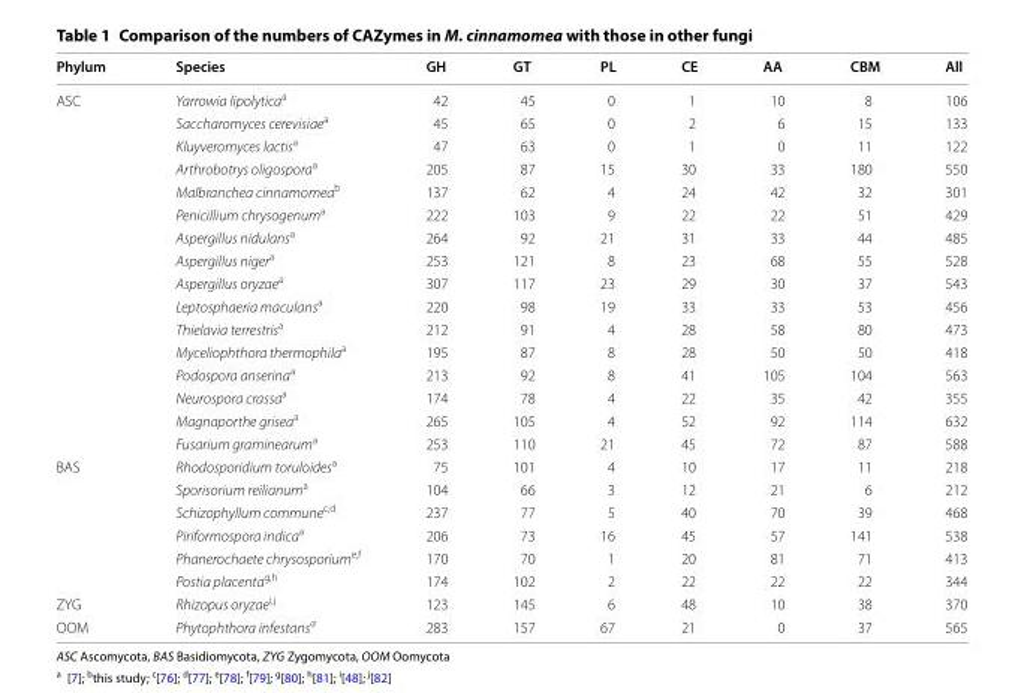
<table><thead><tr><td>Phylum</td><td>Species</td><td>GH</td><td>GT</td><td>PL</td><td>CE</td><td>AA</td><td>CBM</td><td>All</td></tr></thead><tbody><tr><td rowspan="16">ASC</td><td>Yarrowia lipolytica<sup>a</sup></td><td>42</td><td>45</td><td>0</td><td>1</td><td>10</td><td>8</td><td>106</td></tr><tr><td>Saccharomyces cerevisiae<sup>a</sup></td><td>45</td><td>65</td><td>0</td><td>2</td><td>6</td><td>15</td><td>133</td></tr><tr><td>Kluyveromyces lactis<sup>a</sup></td><td>47</td><td>63</td><td>0</td><td>1</td><td>0</td><td>11</td><td>122</td></tr><tr><td>Arthrobotrys oligospora<sup>a</sup></td><td>205</td><td>87</td><td>15</td><td>30</td><td>33</td><td>180</td><td>550</td></tr><tr><td>Malbranchea cinnamomea<sup>b</sup></td><td>137</td><td>62</td><td>4</td><td>24</td><td>42</td><td>32</td><td>301</td></tr><tr><td>Penicillium chrysogenum<sup>a</sup></td><td>222</td><td>103</td><td>9</td><td>22</td><td>22</td><td>51</td><td>429</td></tr><tr><td>Aspergillus nidulans<sup>a</sup></td><td>264</td><td>92</td><td>21</td><td>31</td><td>33</td><td>44</td><td>485</td></tr><tr><td>Aspergillus niger<sup>a</sup></td><td>253</td><td>121</td><td>8</td><td>23</td><td>68</td><td>55</td><td>528</td></tr><tr><td>Aspergillus oryzae<sup>a</sup></td><td>307</td><td>117</td><td>23</td><td>29</td><td>30</td><td>37</td><td>543</td></tr><tr><td>Leptosphaeria maculans<sup>a</sup></td><td>220</td><td>98</td><td>19</td><td>33</td><td>33</td><td>53</td><td>456</td></tr><tr><td>Thielavia terrestris<sup>a</sup></td><td>212</td><td>91</td><td>4</td><td>28</td><td>58</td><td>80</td><td>473</td></tr><tr><td>Myceliophthora thermophila<sup>a</sup></td><td>195</td><td>87</td><td>8</td><td>28</td><td>50</td><td>50</td><td>418</td></tr><tr><td>Podospora anserina<sup>a</sup></td><td>213</td><td>92</td><td>8</td><td>41</td><td>105</td><td>104</td><td>563</td></tr><tr><td>Neurospora crassa<sup>a</sup></td><td>174</td><td>78</td><td>4</td><td>22</td><td>35</td><td>42</td><td>355</td></tr><tr><td>Magnaporthe grisea<sup>a</sup></td><td>265</td><td>105</td><td>4</td><td>52</td><td>92</td><td>114</td><td>632</td></tr><tr><td>Fusarium graminearum<sup>a</sup></td><td>253</td><td>110</td><td>21</td><td>45</td><td>72</td><td>87</td><td>588</td></tr><tr><td rowspan="6">BAS</td><td>Rhodosporidium toruloides<sup>a</sup></td><td>75</td><td>101</td><td>4</td><td>10</td><td>17</td><td>11</td><td>218</td></tr><tr><td>Sporisorium reilianum<sup>a</sup></td><td>104</td><td>66</td><td>3</td><td>12</td><td>21</td><td>6</td><td>212</td></tr><tr><td>Schizophyllum commune<sup>c,d</sup></td><td>237</td><td>77</td><td>5</td><td>40</td><td>70</td><td>39</td><td>468</td></tr><tr><td>Piriformospora indica<sup>a</sup></td><td>206</td><td>73</td><td>16</td><td>45</td><td>57</td><td>141</td><td>538</td></tr><tr><td>Phanerochaete chrysosporium<sup>e,f</sup></td><td>170</td><td>70</td><td>1</td><td>20</td><td>81</td><td>71</td><td>413</td></tr><tr><td>Postia placenta<sup>g,h</sup></td><td>174</td><td>102</td><td>2</td><td>22</td><td>22</td><td>22</td><td>344</td></tr><tr><td>ZYG</td><td>Rhizopus oryzae<sup>i,j</sup></td><td>123</td><td>145</td><td>6</td><td>48</td><td>10</td><td>38</td><td>370</td></tr><tr><td>OOM</td><td>Phytophthora infestans<sup>a</sup></td><td>283</td><td>157</td><td>67</td><td>21</td><td>0</td><td>37</td><td>565</td></tr></tbody></table>